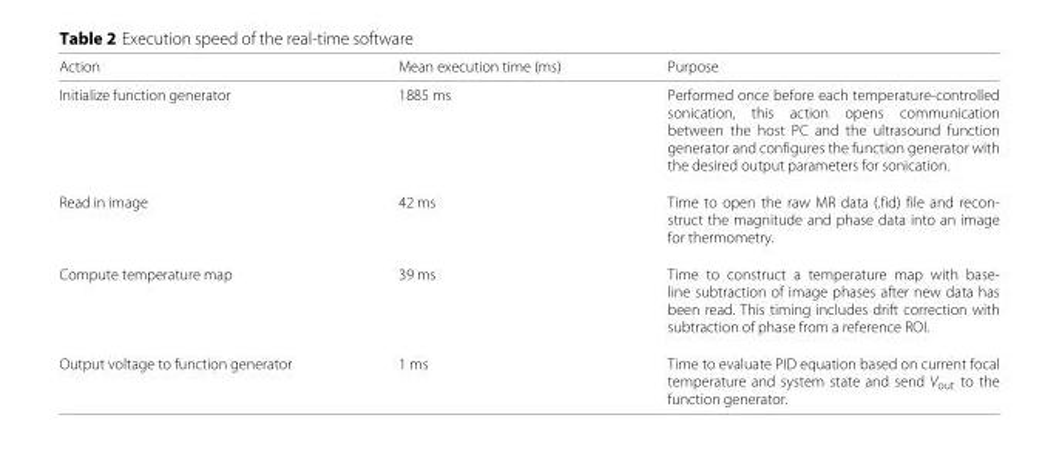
<table><thead><tr><td>Action</td><td>Mean execution time (ms)</td><td>Purpose</td></tr></thead><tbody><tr><td>Initialize function generator</td><td>1885 ms</td><td>Performed once before each temperature-controlled sonication, this action opens communication between the host PC and the ultrasound function generator and configures the function generator with the desired output parameters for sonication.</td></tr><tr><td>Read in image</td><td>42 ms</td><td>Time to open the raw MR data (.fid) file and recon- struct the magnitude and phase data into an image for thermometry.</td></tr><tr><td>Compute temperature map</td><td>39 ms</td><td>Time to construct a temperature map with base- line subtraction of image phases after new data has been read. This timing includes drift correction with subtraction of phase from a reference ROI.</td></tr><tr><td>Output voltage to function generator</td><td>1 ms</td><td>Time to evaluate PID equation based on current focal temperature and system state and send V<sub>out</sub> to the function generator.</td></tr></tbody></table>